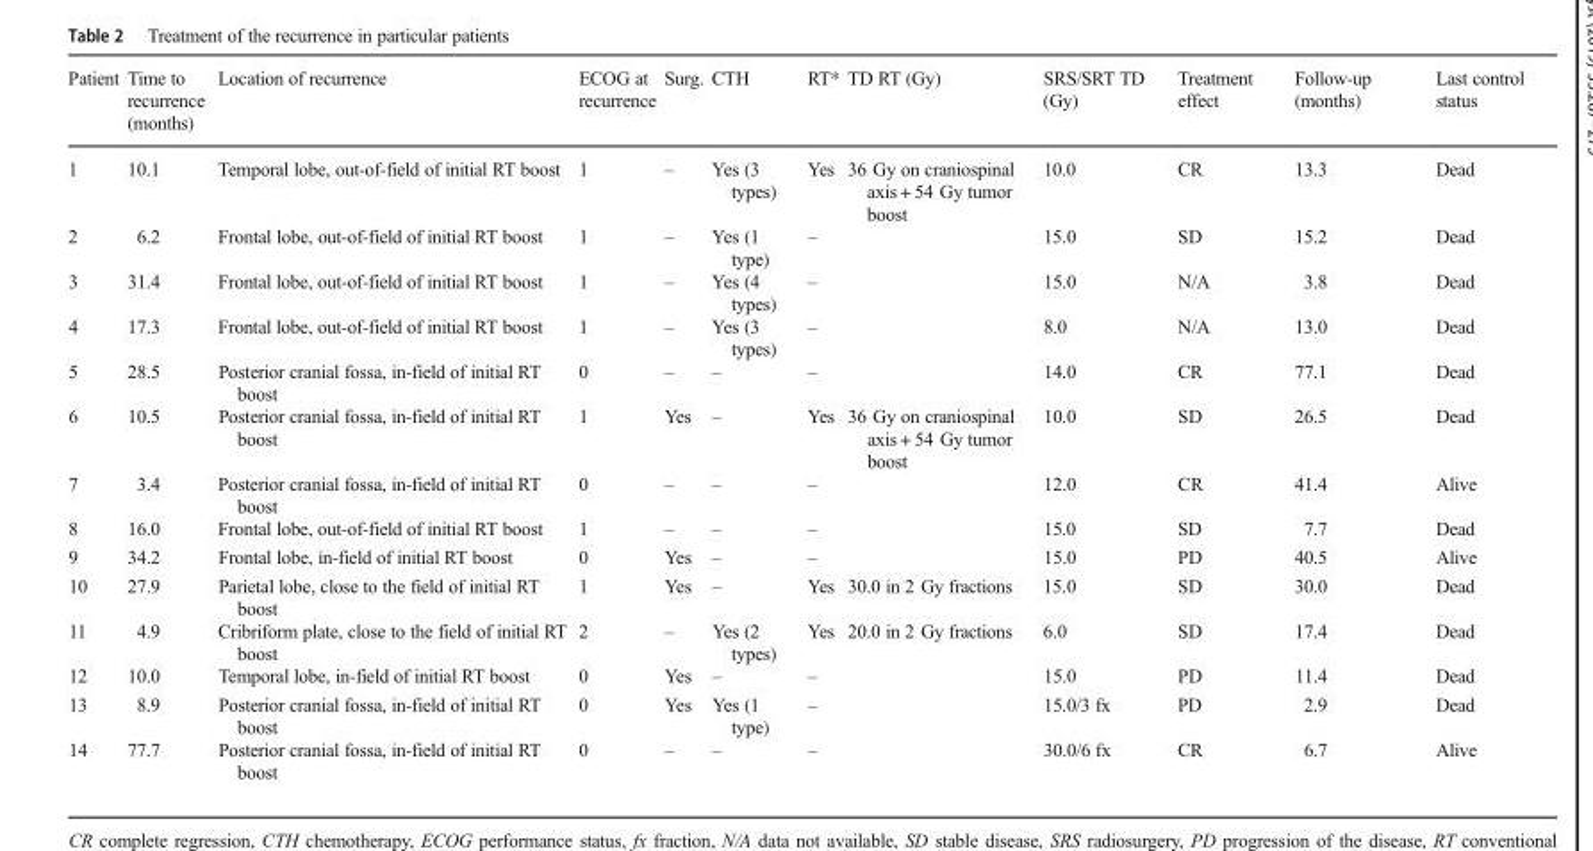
<table><thead><tr><td>Patient</td><td>Time to recurrence (months)</td><td>Location of recurrence</td><td>ECOG at recurrence</td><td>Surg.</td><td>CTH</td><td>RT*</td><td>TD RT (Gy)</td><td>SRS/SRT TD (Gy)</td><td>Treatment effect</td><td>Follow-up (months)</td><td>Last control status</td></tr></thead><tbody><tr><td>1</td><td>10.1</td><td>Temporal lobe, out-of-field of initial RT boost</td><td>1</td><td>–</td><td>Yes (3 types)</td><td>Yes</td><td>36 Gy on craniospinal axis + 54 Gy tumor boost</td><td>10.0</td><td>CR</td><td>13.3</td><td>Dead</td></tr><tr><td>2</td><td>6.2</td><td>Frontal lobe, out-of-field of initial RT boost</td><td>1</td><td>–</td><td>Yes (1 type)</td><td>–</td><td></td><td>15.0</td><td>SD</td><td>15.2</td><td>Dead</td></tr><tr><td>3</td><td>31.4</td><td>Frontal lobe, out-of-field of initial RT boost</td><td>1</td><td>–</td><td>Yes (4 types)</td><td>–</td><td></td><td>15.0</td><td>N/A</td><td>3.8</td><td>Dead</td></tr><tr><td>4</td><td>17.3</td><td>Frontal lobe, out-of-field of initial RT boost</td><td>1</td><td>–</td><td>Yes (3 types)</td><td>–</td><td></td><td>8.0</td><td>N/A</td><td>13.0</td><td>Dead</td></tr><tr><td>5</td><td>28.5</td><td>Posterior cranial fossa, in-field of initial RT boost</td><td>0</td><td>–</td><td>–</td><td>–</td><td></td><td>14.0</td><td>CR</td><td>77.1</td><td>Dead</td></tr><tr><td>6</td><td>10.5</td><td>Posterior cranial fossa, in-field of initial RT boost</td><td>1</td><td>Yes</td><td>–</td><td>Yes</td><td>36 Gy on craniospinal axis + 54 Gy tumor boost</td><td>10.0</td><td>SD</td><td>26.5</td><td>Dead</td></tr><tr><td>7</td><td>3.4</td><td>Posterior cranial fossa, in-field of initial RT boost</td><td>0</td><td>–</td><td>–</td><td>–</td><td></td><td>12.0</td><td>CR</td><td>41.4</td><td>Alive</td></tr><tr><td>8</td><td>16.0</td><td>Frontal lobe, out-of-field of initial RT boost</td><td>1</td><td>–</td><td>–</td><td>–</td><td></td><td>15.0</td><td>SD</td><td>7.7</td><td>Dead</td></tr><tr><td>9</td><td>34.2</td><td>Frontal lobe, in-field of initial RT boost</td><td>0</td><td>Yes</td><td>–</td><td>–</td><td></td><td>15.0</td><td>PD</td><td>40.5</td><td>Alive</td></tr><tr><td>10</td><td>27.9</td><td>Parietal lobe, close to the field of initial RT boost</td><td>1</td><td>Yes</td><td>–</td><td>Yes</td><td>30.0 in 2 Gy fractions</td><td>15.0</td><td>SD</td><td>30.0</td><td>Dead</td></tr><tr><td>11</td><td>4.9</td><td>Cribriform plate, close to the field of initial RT boost</td><td>2</td><td>–</td><td>Yes (2 types)</td><td>Yes</td><td>20.0 in 2 Gy fractions</td><td>6.0</td><td>SD</td><td>17.4</td><td>Dead</td></tr><tr><td>12</td><td>10.0</td><td>Temporal lobe, in-field of initial RT boost</td><td>0</td><td>Yes</td><td>–</td><td>–</td><td></td><td>15.0</td><td>PD</td><td>11.4</td><td>Dead</td></tr><tr><td>13</td><td>8.9</td><td>Posterior cranial fossa, in-field of initial RT boost</td><td>0</td><td>Yes</td><td>Yes (1 type)</td><td>–</td><td></td><td>15.0/3 fx</td><td>PD</td><td>2.9</td><td>Dead</td></tr><tr><td>14</td><td>77.7</td><td>Posterior cranial fossa, in-field of initial RT boost</td><td>0</td><td>–</td><td>–</td><td>–</td><td></td><td>30.0/6 fx</td><td>CR</td><td>6.7</td><td>Alive</td></tr></tbody></table>